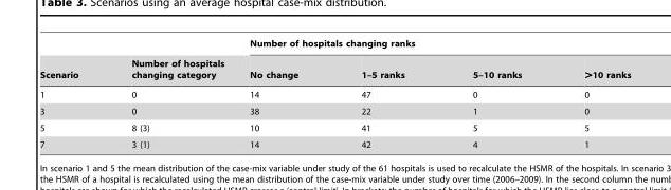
<table><thead><tr><td rowspan="2">Scenario</td><td rowspan="2">Number of hospitals changing category</td><td colspan="4">Number of hospitals changing ranks</td></tr><tr><td>No change</td><td>1–5 ranks</td><td>5–10 ranks</td><td>&gt;10 ranks</td></tr></thead><tbody><tr><td>1</td><td>0</td><td>14</td><td>47</td><td>0</td><td>0</td></tr><tr><td>3</td><td>0</td><td>38</td><td>22</td><td>1</td><td>0</td></tr><tr><td>5</td><td>8 (3)</td><td>10</td><td>41</td><td>5</td><td>5</td></tr><tr><td>7</td><td>3 (1)</td><td>14</td><td>42</td><td>4</td><td>1</td></tr></tbody></table>